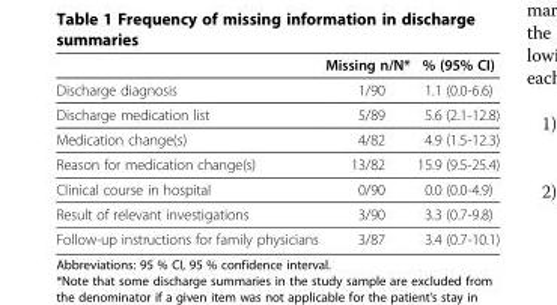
<table><thead><tr><td></td><td>Missing n/N*</td><td>% (95% CI)</td></tr></thead><tbody><tr><td>Discharge diagnosis</td><td>1/90</td><td>1.1 (0.0-6.6)</td></tr><tr><td>Discharge medication list</td><td>5/89</td><td>5.6 (2.1-12.8)</td></tr><tr><td>Medication change(s)</td><td>4/82</td><td>4.9 (1.5-12.3)</td></tr><tr><td>Reason for medication change(s)</td><td>13/82</td><td>15.9 (9.5-25.4)</td></tr><tr><td>Clinical course in hospital</td><td>0/90</td><td>0.0 (0.0-4.9)</td></tr><tr><td>Result of relevant investigations</td><td>3/90</td><td>3.3 (0.7-9.8)</td></tr><tr><td>Follow-up instructions for family physicians</td><td>3/87</td><td>3.4 (0.7-10.1)</td></tr></tbody></table>